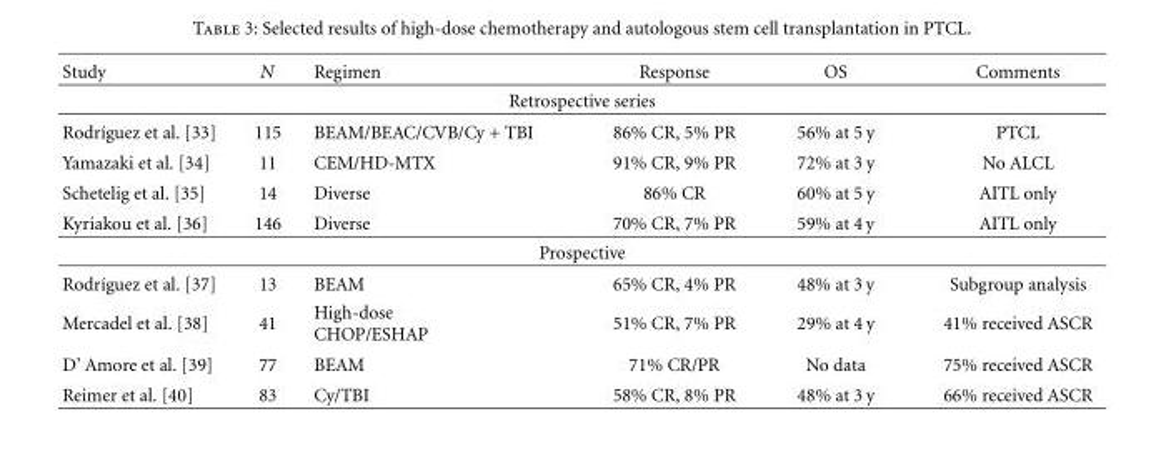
<table><thead><tr><td>Study</td><td>N</td><td>Regimen</td><td>Response</td><td>OS</td><td>Comments</td></tr></thead><tbody><tr><td colspan="6">Retrospective series</td></tr><tr><td>Rodr´ıguez et al. [33]</td><td>115</td><td>BEAM/BEAC/CVB/Cy + TBI</td><td>86% CR, 5% PR</td><td>56% at 5 y</td><td>PTCL</td></tr><tr><td>Yamazaki et al. [34]</td><td>11</td><td>CEM/HD-MTX</td><td>91% CR, 9% PR</td><td>72% at 3 y</td><td>No ALCL</td></tr><tr><td>Schetelig et al. [35]</td><td>14</td><td>Diverse</td><td>86% CR</td><td>60% at 5 y</td><td>AITL only</td></tr><tr><td>Kyriakou et al. [36]</td><td>146</td><td>Diverse</td><td>70% CR, 7% PR</td><td>59% at 4 y</td><td>AITL only</td></tr><tr><td colspan="6">Prospective</td></tr><tr><td>Rodr´ıguez et al. [37]</td><td>13</td><td>BEAM</td><td>65% CR, 4% PR</td><td>48% at 3 y</td><td>Subgroup analysis</td></tr><tr><td>Mercadel et al. [38]</td><td>41</td><td>High-dose CHOP/ESHAP</td><td>51% CR, 7% PR</td><td>29% at 4 y</td><td>41% received ASCR</td></tr><tr><td>D’ Amore et al. [39]</td><td>77</td><td>BEAM</td><td>71% CR/PR</td><td>No data</td><td>75% received ASCR</td></tr><tr><td>Reimer et al. [40]</td><td>83</td><td>Cy/TBI</td><td>58% CR, 8% PR</td><td>48% at 3 y</td><td>66% received ASCR</td></tr></tbody></table>